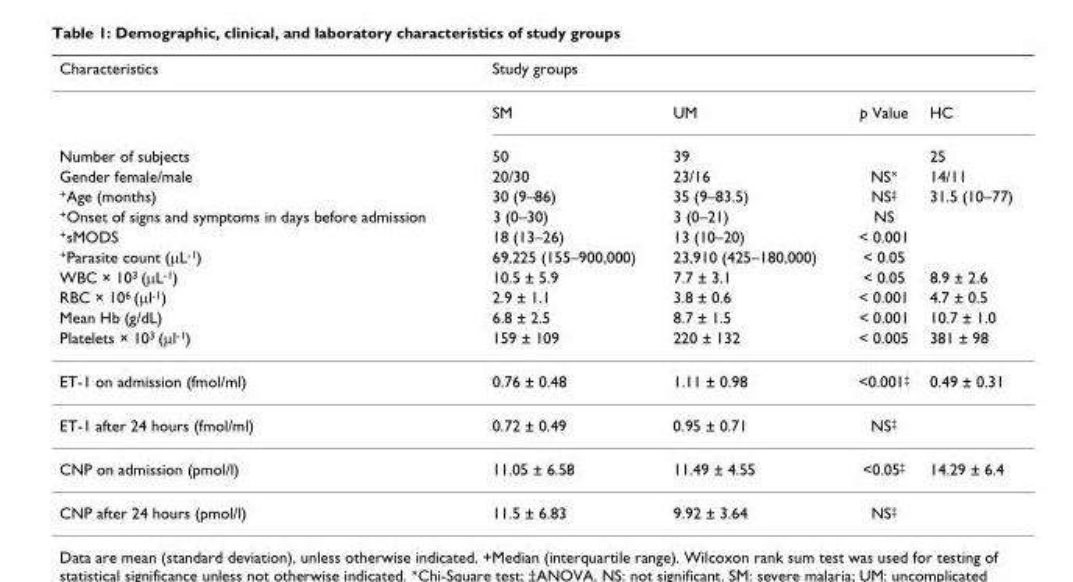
<table><thead><tr><td rowspan="2">Characteristics</td><td colspan="4">Study groups</td></tr><tr><td>SM</td><td>UM</td><td>p Value</td><td>HC</td></tr></thead><tbody><tr><td>Number of subjects</td><td>50</td><td>39</td><td></td><td>25</td></tr><tr><td>Gender female/male</td><td>20/30</td><td>23/16</td><td>NS<sup>×</sup></td><td>14/11</td></tr><tr><td><sup>+</sup>Age (months)</td><td>30 (9–86)</td><td>35 (9–83.5)</td><td>NS<sup>‡</sup></td><td>31.5 (10–77)</td></tr><tr><td><sup>+</sup>Onset of signs and symptoms in days before admission</td><td>3 (0–30)</td><td>3 (0–21)</td><td>NS</td><td></td></tr><tr><td><sup>+</sup>sMODS</td><td>18 (13–26)</td><td>13 (10–20)</td><td>&lt; 0.001</td><td></td></tr><tr><td><sup>+</sup>Parasite count (μL<sup>-1</sup>)</td><td>69,225 (155–900,000)</td><td>23,910 (425–180,000)</td><td>&lt; 0.05</td><td></td></tr><tr><td>WBC × 10<sup>3</sup> (μL<sup>-1</sup>)</td><td>10.5 ± 5.9</td><td>7.7 ± 3.1</td><td>&lt; 0.05</td><td>8.9 ± 2.6</td></tr><tr><td>RBC × 10<sup>6</sup> (μl<sup>-1</sup>)</td><td>2.9 ± 1.1</td><td>3.8 ± 0.6</td><td>&lt; 0.001</td><td>4.7 ± 0.5</td></tr><tr><td>Mean Hb (g/dL)</td><td>6.8 ± 2.5</td><td>8.7 ± 1.5</td><td>&lt; 0.001</td><td>10.7 ± 1.0</td></tr><tr><td>Platelets × 10<sup>3</sup> (μl<sup>-1</sup>)</td><td>159 ± 109</td><td>220 ± 132</td><td>&lt; 0.005</td><td>381 ± 98</td></tr><tr><td>ET-1 on admission (fmol/ml)</td><td>0.76 ± 0.48</td><td>1.11 ± 0.98</td><td>&lt;0.001<sup>‡</sup></td><td>0.49 ± 0.31</td></tr><tr><td>ET-1 after 24 hours (fmol/ml)</td><td>0.72 ± 0.49</td><td>0.95 ± 0.71</td><td>NS<sup>‡</sup></td><td></td></tr><tr><td>CNP on admission (pmol/l)</td><td>11.05 ± 6.58</td><td>11.49 ± 4.55</td><td>&lt;0.05<sup>‡</sup></td><td>14.29 ± 6.4</td></tr><tr><td>CNP after 24 hours (pmol/l)</td><td>11.5 ± 6.83</td><td>9.92 ± 3.64</td><td>NS<sup>‡</sup></td><td></td></tr></tbody></table>